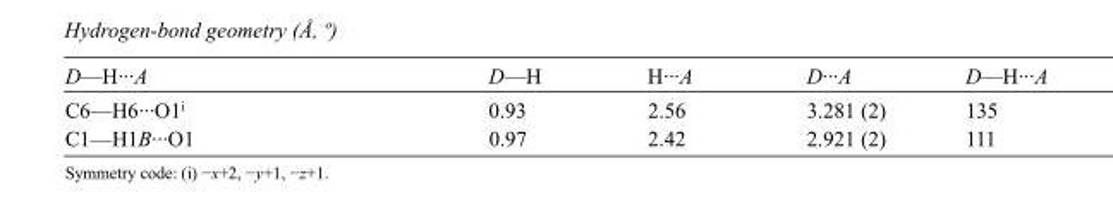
<table><tbody><tr><td>D—H···A</td><td>D—H</td><td>H···A</td><td>D···A</td><td>D—H···A</td></tr><tr><td>C6—H6···O1<sup>i</sup></td><td>0.93</td><td>2.56</td><td>3.281 (2)</td><td>135</td></tr><tr><td>C1—H1B···O1</td><td>0.97</td><td>2.42</td><td>2.921 (2)</td><td>111</td></tr></tbody></table>